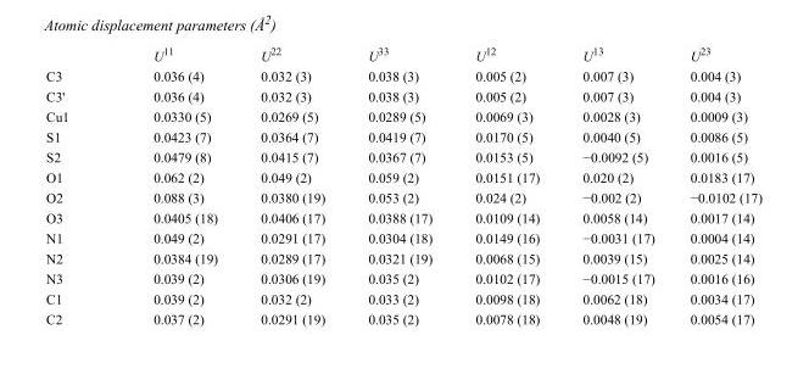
<table><thead><tr><td></td><td>U<sup>11</sup></td><td>U<sup>22</sup></td><td>U<sup>33</sup></td><td>U<sup>12</sup></td><td>U<sup>13</sup></td><td>U<sup>23</sup></td></tr></thead><tbody><tr><td>C3</td><td>0.036 (4)</td><td>0.032 (3)</td><td>0.038 (3)</td><td>0.005 (2)</td><td>0.007 (3)</td><td>0.004 (3)</td></tr><tr><td>C3&#x27;</td><td>0.036 (4)</td><td>0.032 (3)</td><td>0.038 (3)</td><td>0.005 (2)</td><td>0.007 (3)</td><td>0.004 (3)</td></tr><tr><td>Cu1</td><td>0.0330 (5)</td><td>0.0269 (5)</td><td>0.0289 (5)</td><td>0.0069 (3)</td><td>0.0028 (3)</td><td>0.0009 (3)</td></tr><tr><td>S1</td><td>0.0423 (7)</td><td>0.0364 (7)</td><td>0.0419 (7)</td><td>0.0170 (5)</td><td>0.0040 (5)</td><td>0.0086 (5)</td></tr><tr><td>S2</td><td>0.0479 (8)</td><td>0.0415 (7)</td><td>0.0367 (7)</td><td>0.0153 (5)</td><td>−0.0092 (5)</td><td>0.0016 (5)</td></tr><tr><td>O1</td><td>0.062 (2)</td><td>0.049 (2)</td><td>0.059 (2)</td><td>0.0151 (17)</td><td>0.020 (2)</td><td>0.0183 (17)</td></tr><tr><td>O2</td><td>0.088 (3)</td><td>0.0380 (19)</td><td>0.053 (2)</td><td>0.024 (2)</td><td>−0.002 (2)</td><td>−0.0102 (17)</td></tr><tr><td>O3</td><td>0.0405 (18)</td><td>0.0406 (17)</td><td>0.0388 (17)</td><td>0.0109 (14)</td><td>0.0058 (14)</td><td>0.0017 (14)</td></tr><tr><td>N1</td><td>0.049 (2)</td><td>0.0291 (17)</td><td>0.0304 (18)</td><td>0.0149 (16)</td><td>−0.0031 (17)</td><td>0.0004 (14)</td></tr><tr><td>N2</td><td>0.0384 (19)</td><td>0.0289 (17)</td><td>0.0321 (19)</td><td>0.0068 (15)</td><td>0.0039 (15)</td><td>0.0025 (14)</td></tr><tr><td>N3</td><td>0.039 (2)</td><td>0.0306 (19)</td><td>0.035 (2)</td><td>0.0102 (17)</td><td>−0.0015 (17)</td><td>0.0016 (16)</td></tr><tr><td>C1</td><td>0.039 (2)</td><td>0.032 (2)</td><td>0.033 (2)</td><td>0.0098 (18)</td><td>0.0062 (18)</td><td>0.0034 (17)</td></tr><tr><td>C2</td><td>0.037 (2)</td><td>0.0291 (19)</td><td>0.035 (2)</td><td>0.0078 (18)</td><td>0.0048 (19)</td><td>0.0054 (17)</td></tr></tbody></table>